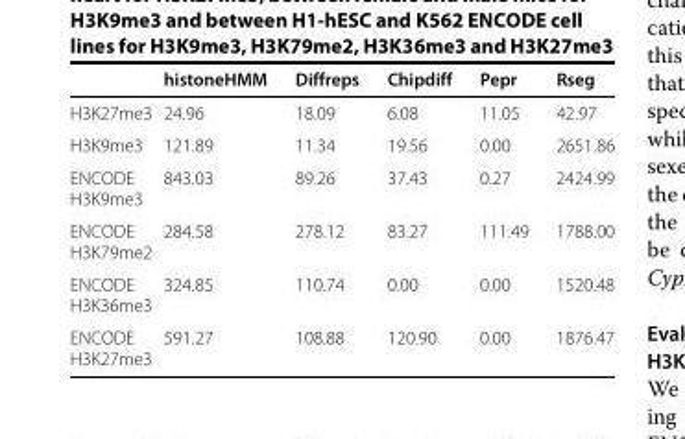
<table><thead><tr><td></td><td>histoneHMM</td><td>Diffreps</td><td>Chipdiff</td><td>Pepr</td><td>Rseg</td></tr></thead><tbody><tr><td>H3K27me3</td><td>24.96</td><td>18.09</td><td>6.08</td><td>11.05</td><td>42.97</td></tr><tr><td>H3K9me3</td><td>121.89</td><td>11.34</td><td>19.56</td><td>0.00</td><td>2651.86</td></tr><tr><td>ENCODE H3K9me3</td><td>843.03</td><td>89.26</td><td>37.43</td><td>0.27</td><td>2424.99</td></tr><tr><td>ENCODE H3K79me2</td><td>284.58</td><td>278.12</td><td>83.27</td><td>111.49</td><td>1788.00</td></tr><tr><td>ENCODE H3K36me3</td><td>324.85</td><td>110.74</td><td>0.00</td><td>0.00</td><td>1520.48</td></tr><tr><td>ENCODE H3K27me3</td><td>591.27</td><td>108.88</td><td>120.90</td><td>0.00</td><td>1876.47</td></tr></tbody></table>